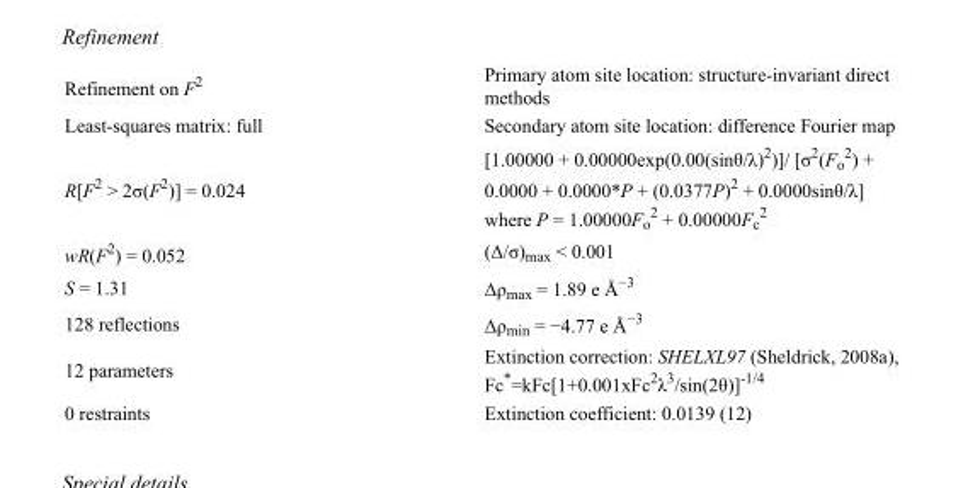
<table><tbody><tr><td>Refinement on F<sup>2</sup></td><td>Primary atom site location: structure-invariant direct methods</td></tr><tr><td>Least-squares matrix: full</td><td>Secondary atom site location: difference Fourier map</td></tr><tr><td>R[F<sup>2</sup> &gt; 2σ(F<sup>2</sup>)] = 0.024</td><td>[1.00000 + 0.00000exp(0.00(sinθ/λ)<sup>2</sup>)]/ [σ<sup>2</sup>(F<sub>o</sub> <sup>2</sup>) + 0.0000 + 0.0000*P + (0.0377P)<sup>2</sup> + 0.0000sinθ/λ] where P = 1.00000F<sub>o</sub> <sup>2</sup> + 0.00000F<sub>c</sub> <sup>2</sup></td></tr><tr><td>wR(F<sup>2</sup>) = 0.052</td><td>(Δ/σ)<sub>max</sub> &lt; 0.001</td></tr><tr><td>S = 1.31</td><td>Δρ<sub>max</sub> = 1.89 e Å<sup>−3</sup></td></tr><tr><td>128 reflections</td><td>Δρ<sub>min</sub> = −4.77 e Å<sup>−3</sup></td></tr><tr><td>12 parameters</td><td>Extinction correction: SHELXL97 (Sheldrick, 2008a), Fc*=kFc[1+0.001xFc<sup>2</sup>λ<sup>3</sup>/sin(2θ)]<sup>-1/4</sup></td></tr><tr><td>0 restraints</td><td>Extinction coefficient: 0.0139 (12)</td></tr></tbody></table>